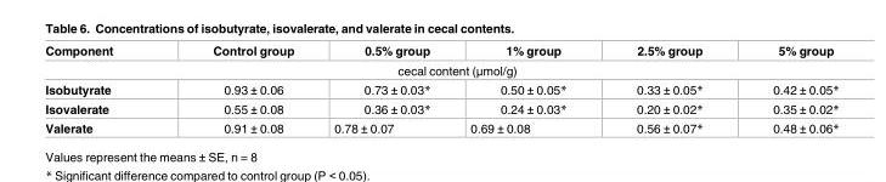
<table><thead><tr><td>Component</td><td>Control group</td><td>0.5% group</td><td>1% group</td><td>2.5% group</td><td>5% group</td></tr></thead><tbody><tr><td colspan="6">cecal content (μmol/g)</td></tr><tr><td>Isobutyrate</td><td>0.93 ± 0.06</td><td>0.73 ± 0.03*</td><td>0.50 ± 0.05*</td><td>0.33 ± 0.05*</td><td>0.42 ± 0.05*</td></tr><tr><td>Isovalerate</td><td>0.55 ± 0.08</td><td>0.36 ± 0.03*</td><td>0.24 ± 0.03*</td><td>0.20 ± 0.02*</td><td>0.35 ± 0.02*</td></tr><tr><td>Valerate</td><td>0.91 ± 0.08</td><td>0.78 ± 0.07</td><td>0.69 ± 0.08</td><td>0.56 ± 0.07*</td><td>0.48 ± 0.06*</td></tr></tbody></table>